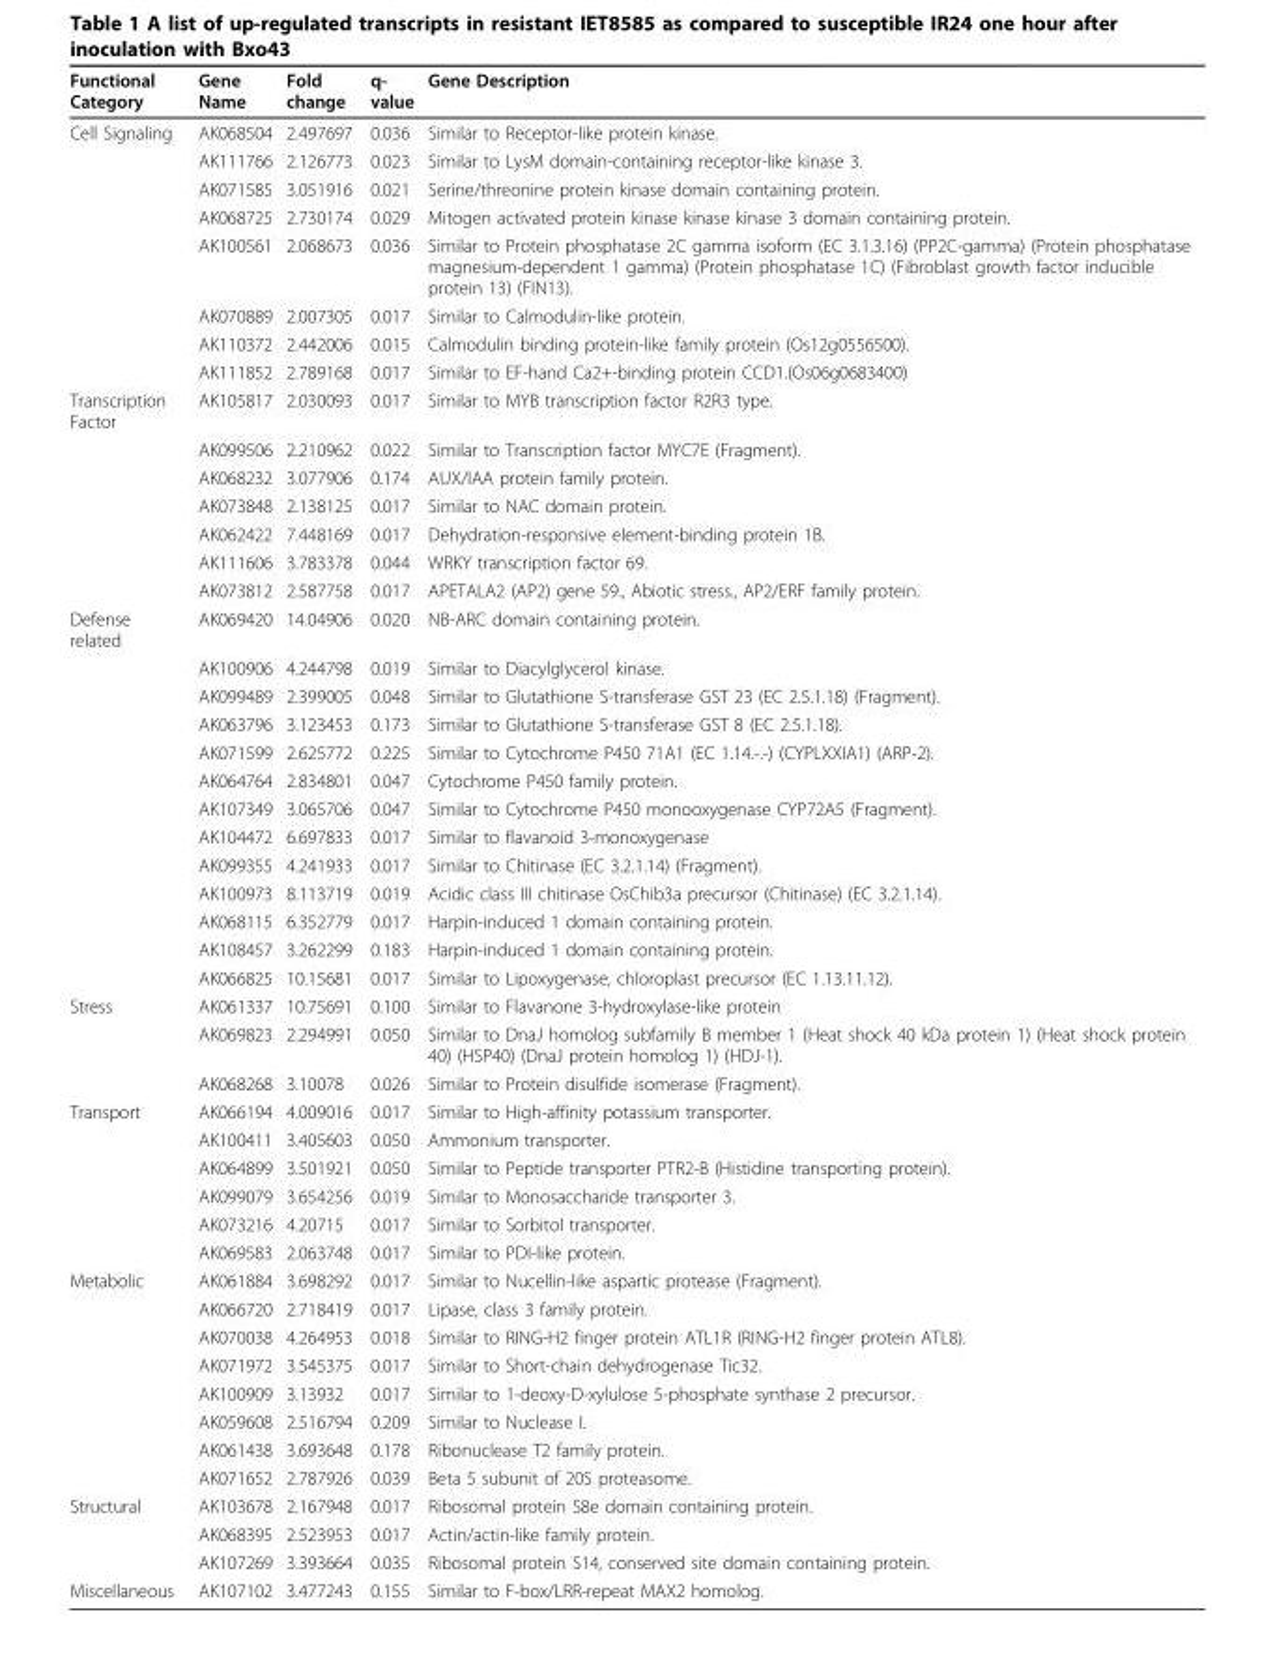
<table><thead><tr><td>Functional Category</td><td>Gene Name</td><td>Fold change</td><td>q- value</td><td>Gene Description</td></tr></thead><tbody><tr><td rowspan="8">Cell Signaling</td><td>AK068504</td><td>2.497697</td><td>0.036</td><td>Similar to Receptor-like protein kinase.</td></tr><tr><td>AK111766</td><td>2.126773</td><td>0.023</td><td>Similar to LysM domain-containing receptor-like kinase 3.</td></tr><tr><td>AK071585</td><td>3.051916</td><td>0.021</td><td>Serine/threonine protein kinase domain containing protein.</td></tr><tr><td>AK068725</td><td>2.730174</td><td>0.029</td><td>Mitogen activated protein kinase kinase kinase 3 domain containing protein.</td></tr><tr><td>AK100561</td><td>2.068673</td><td>0.036</td><td>Similar to Protein phosphatase 2C gamma isoform (EC 3.1.3.16) (PP2C-gamma) (Protein phosphatase magnesium-dependent 1 gamma) (Protein phosphatase 1C) (Fibroblast growth factor inducible protein 13) (FIN13).</td></tr><tr><td>AK070889</td><td>2.007305</td><td>0.017</td><td>Similar to Calmodulin-like protein.</td></tr><tr><td>AK110372</td><td>2.442006</td><td>0.015</td><td>Calmodulin binding protein-like family protein (Os12g0556500).</td></tr><tr><td>AK111852</td><td>2.789168</td><td>0.017</td><td>Similar to EF-hand Ca2+-binding protein CCD1.(Os06g0683400)</td></tr><tr><td rowspan="7">Transcription Factor</td><td>AK105817</td><td>2.030093</td><td>0.017</td><td>Similar to MYB transcription factor R2R3 type.</td></tr><tr><td>AK099506</td><td>2.210962</td><td>0.022</td><td>Similar to Transcription factor MYC7E (Fragment).</td></tr><tr><td>AK068232</td><td>3.077906</td><td>0.174</td><td>AUX/IAA protein family protein.</td></tr><tr><td>AK073848</td><td>2.138125</td><td>0.017</td><td>Similar to NAC domain protein.</td></tr><tr><td>AK062422</td><td>7.448169</td><td>0.017</td><td>Dehydration-responsive element-binding protein 1B.</td></tr><tr><td>AK111606</td><td>3.783378</td><td>0.044</td><td>WRKY transcription factor 69.</td></tr><tr><td>AK073812</td><td>2.587758</td><td>0.017</td><td>APETALA2 (AP2) gene 59., Abiotic stress., AP2/ERF family protein.</td></tr><tr><td rowspan="13">Defense related</td><td>AK069420</td><td>14.04906</td><td>0.020</td><td>NB-ARC domain containing protein.</td></tr><tr><td>AK100906</td><td>4.244798</td><td>0.019</td><td>Similar to Diacylglycerol kinase.</td></tr><tr><td>AK099489</td><td>2.399005</td><td>0.048</td><td>Similar to Glutathione S-transferase GST 23 (EC 2.5.1.18) (Fragment).</td></tr><tr><td>AK063796</td><td>3.123453</td><td>0.173</td><td>Similar to Glutathione S-transferase GST 8 (EC 2.5.1.18).</td></tr><tr><td>AK071599</td><td>2.625772</td><td>0.225</td><td>Similar to Cytochrome P450 71A1 (EC 1.14.-.-) (CYPLXXIA1) (ARP-2).</td></tr><tr><td>AK064764</td><td>2.834801</td><td>0.047</td><td>Cytochrome P450 family protein.</td></tr><tr><td>AK107349</td><td>3.065706</td><td>0.047</td><td>Similar to Cytochrome P450 monooxygenase CYP72A5 (Fragment).</td></tr><tr><td>AK104472</td><td>6.697833</td><td>0.017</td><td>Similar to flavanoid 3-monoxygenase</td></tr><tr><td>AK099355</td><td>4.241933</td><td>0.017</td><td>Similar to Chitinase (EC 3.2.1.14) (Fragment).</td></tr><tr><td>AK100973</td><td>8.113719</td><td>0.019</td><td>Acidic class III chitinase OsChib3a precursor (Chitinase) (EC 3.2.1.14).</td></tr><tr><td>AK068115</td><td>6.352779</td><td>0.017</td><td>Harpin-induced 1 domain containing protein.</td></tr><tr><td>AK108457</td><td>3.262299</td><td>0.183</td><td>Harpin-induced 1 domain containing protein.</td></tr><tr><td>AK066825</td><td>10.15681</td><td>0.017</td><td>Similar to Lipoxygenase, chloroplast precursor (EC 1.13.11.12).</td></tr><tr><td rowspan="3">Stress</td><td>AK061337</td><td>10.75691</td><td>0.100</td><td>Similar to Flavanone 3-hydroxylase-like protein</td></tr><tr><td>AK069823</td><td>2.294991</td><td>0.050</td><td>Similar to DnaJ homolog subfamily B member 1 (Heat shock 40 kDa protein 1) (Heat shock protein 40) (HSP40) (DnaJ protein homolog 1) (HDJ-1).</td></tr><tr><td>AK068268</td><td>3.10078</td><td>0.026</td><td>Similar to Protein disulfide isomerase (Fragment).</td></tr><tr><td rowspan="6">Transport</td><td>AK066194</td><td>4.009016</td><td>0.017</td><td>Similar to High-affinity potassium transporter.</td></tr><tr><td>AK100411</td><td>3.405603</td><td>0.050</td><td>Ammonium transporter.</td></tr><tr><td>AK064899</td><td>3.501921</td><td>0.050</td><td>Similar to Peptide transporter PTR2-B (Histidine transporting protein).</td></tr><tr><td>AK099079</td><td>3.654256</td><td>0.019</td><td>Similar to Monosaccharide transporter 3.</td></tr><tr><td>AK073216</td><td>4.20715</td><td>0.017</td><td>Similar to Sorbitol transporter.</td></tr><tr><td>AK069583</td><td>2.063748</td><td>0.017</td><td>Similar to PDI-like protein.</td></tr><tr><td rowspan="8">Metabolic</td><td>AK061884</td><td>3.698292</td><td>0.017</td><td>Similar to Nucellin-like aspartic protease (Fragment).</td></tr><tr><td>AK066720</td><td>2.718419</td><td>0.017</td><td>Lipase, class 3 family protein.</td></tr><tr><td>AK070038</td><td>4.264953</td><td>0.018</td><td>Similar to RING-H2 finger protein ATL1R (RING-H2 finger protein ATL8).</td></tr><tr><td>AK071972</td><td>3.545375</td><td>0.017</td><td>Similar to Short-chain dehydrogenase Tic32.</td></tr><tr><td>AK100909</td><td>3.13932</td><td>0.017</td><td>Similar to 1-deoxy-D-xylulose 5-phosphate synthase 2 precursor.</td></tr><tr><td>AK059608</td><td>2.516794</td><td>0.209</td><td>Similar to Nuclease I.</td></tr><tr><td>AK061438</td><td>3.693648</td><td>0.178</td><td>Ribonuclease T2 family protein.</td></tr><tr><td>AK071652</td><td>2.787926</td><td>0.039</td><td>Beta 5 subunit of 20S proteasome.</td></tr><tr><td rowspan="3">Structural</td><td>AK103678</td><td>2.167948</td><td>0.017</td><td>Ribosomal protein S8e domain containing protein.</td></tr><tr><td>AK068395</td><td>2.523953</td><td>0.017</td><td>Actin/actin-like family protein.</td></tr><tr><td>AK107269</td><td>3.393664</td><td>0.035</td><td>Ribosomal protein S14, conserved site domain containing protein.</td></tr><tr><td>Miscellaneous</td><td>AK107102</td><td>3.477243</td><td>0.155</td><td>Similar to F-box/LRR-repeat MAX2 homolog.</td></tr></tbody></table>